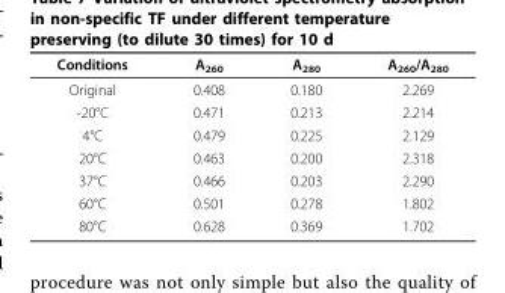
<table><thead><tr><td>Conditions</td><td>A<sub>260</sub></td><td>A<sub>280</sub></td><td>A<sub>260</sub>/A<sub>280</sub></td></tr></thead><tbody><tr><td>Original</td><td>0.408</td><td>0.180</td><td>2.269</td></tr><tr><td>-20°C</td><td>0.471</td><td>0.213</td><td>2.214</td></tr><tr><td>4°C</td><td>0.479</td><td>0.225</td><td>2.129</td></tr><tr><td>20°C</td><td>0.463</td><td>0.200</td><td>2.318</td></tr><tr><td>37°C</td><td>0.466</td><td>0.203</td><td>2.290</td></tr><tr><td>60°C</td><td>0.501</td><td>0.278</td><td>1.802</td></tr><tr><td>80°C</td><td>0.628</td><td>0.369</td><td>1.702</td></tr></tbody></table>